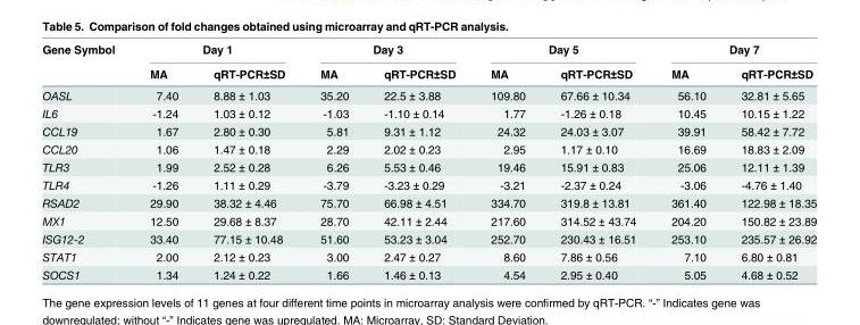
<table><thead><tr><td rowspan="2">Gene Symbol</td><td colspan="2">Day 1</td><td colspan="2">Day 3</td><td colspan="2">Day 5</td><td colspan="2">Day 7</td></tr><tr><td>MA</td><td>qRT-PCR±SD</td><td>MA</td><td>qRT-PCR±SD</td><td>MA</td><td>qRT-PCR±SD</td><td>MA</td><td>qRT-PCR±SD</td></tr></thead><tbody><tr><td>OASL</td><td>7.40</td><td>8.88 ± 1.03</td><td>35.20</td><td>22.5 ± 3.88</td><td>109.80</td><td>67.66 ± 10.34</td><td>56.10</td><td>32.81 ± 5.65</td></tr><tr><td>IL6</td><td>-1.24</td><td>1.03 ± 0.12</td><td>-1.03</td><td>-1.10 ± 0.14</td><td>1.77</td><td>-1.26 ± 0.18</td><td>10.45</td><td>10.15 ± 1.22</td></tr><tr><td>CCL19</td><td>1.67</td><td>2.80 ± 0.30</td><td>5.81</td><td>9.31 ± 1.12</td><td>24.32</td><td>24.03 ± 3.07</td><td>39.91</td><td>58.42 ± 7.72</td></tr><tr><td>CCL20</td><td>1.06</td><td>1.47 ± 0.18</td><td>2.29</td><td>2.02 ± 0.23</td><td>2.95</td><td>1.17 ± 0.10</td><td>16.69</td><td>18.83 ± 2.09</td></tr><tr><td>TLR3</td><td>1.99</td><td>2.52 ± 0.28</td><td>6.26</td><td>5.53 ± 0.46</td><td>19.46</td><td>15.91 ± 0.83</td><td>25.06</td><td>12.11 ± 1.39</td></tr><tr><td>TLR4</td><td>-1.26</td><td>1.11 ± 0.29</td><td>-3.79</td><td>-3.23 ± 0.29</td><td>-3.21</td><td>-2.37 ± 0.24</td><td>-3.06</td><td>-4.76 ± 1.40</td></tr><tr><td>RSAD2</td><td>29.90</td><td>38.32 ± 4.46</td><td>75.70</td><td>66.98 ± 4.51</td><td>334.70</td><td>319.8 ± 13.81</td><td>361.40</td><td>122.98 ± 18.35</td></tr><tr><td>MX1</td><td>12.50</td><td>29.68 ± 8.37</td><td>28.70</td><td>42.11 ± 2.44</td><td>217.60</td><td>314.52 ± 43.74</td><td>204.20</td><td>150.82 ± 23.89</td></tr><tr><td>ISG12-2</td><td>33.40</td><td>77.15 ± 10.48</td><td>51.60</td><td>53.23 ± 3.04</td><td>252.70</td><td>230.43 ± 16.51</td><td>253.10</td><td>235.57 ± 26.92</td></tr><tr><td>STAT1</td><td>2.00</td><td>2.12 ± 0.23</td><td>3.00</td><td>2.47 ± 0.27</td><td>8.60</td><td>7.86 ± 0.56</td><td>7.10</td><td>6.80 ± 0.81</td></tr><tr><td>SOCS1</td><td>1.34</td><td>1.24 ± 0.22</td><td>1.66</td><td>1.46 ± 0.13</td><td>4.54</td><td>2.95 ± 0.40</td><td>5.05</td><td>4.68 ± 0.52</td></tr></tbody></table>